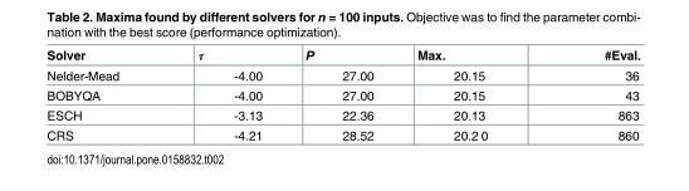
<table><thead><tr><td>Solver</td><td>τ</td><td>P</td><td>Max.</td><td>#Eval.</td></tr></thead><tbody><tr><td>Nelder-Mead</td><td>-4.00</td><td>27.00</td><td>20.15</td><td>36</td></tr><tr><td>BOBYQA</td><td>-4.00</td><td>27.00</td><td>20.15</td><td>43</td></tr><tr><td>ESCH</td><td>-3.13</td><td>22.36</td><td>20.13</td><td>863</td></tr><tr><td>CRS</td><td>-4.21</td><td>28.52</td><td>20.2 0</td><td>860</td></tr></tbody></table>